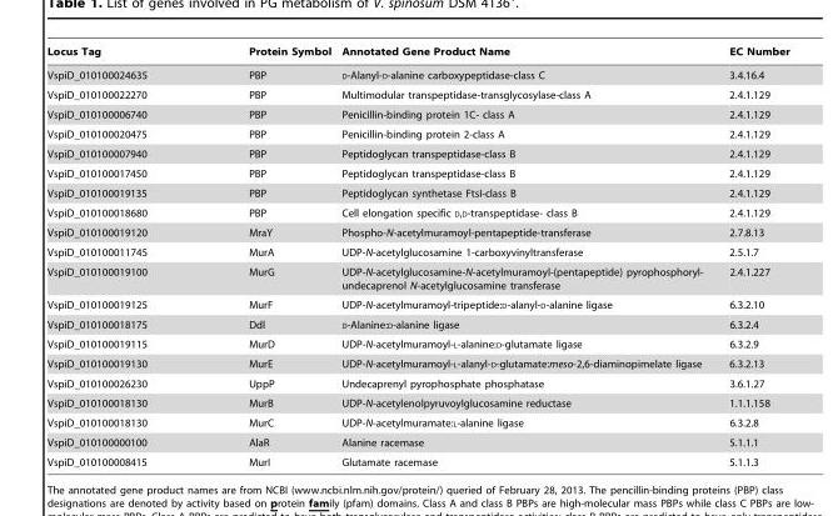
<table><thead><tr><td>Locus Tag</td><td>Protein Symbol</td><td>Annotated Gene Product Name</td><td>EC Number</td></tr></thead><tbody><tr><td>VspiD_010100024635</td><td>PBP</td><td>D-Alanyl-D-alanine carboxypeptidase-class C</td><td>3.4.16.4</td></tr><tr><td>VspiD_010100022270</td><td>PBP</td><td>Multimodular transpeptidase-transglycosylase-class A</td><td>2.4.1.129</td></tr><tr><td>VspiD_010100006740</td><td>PBP</td><td>Penicillin-binding protein 1C- class A</td><td>2.4.1.129</td></tr><tr><td>VspiD_010100020475</td><td>PBP</td><td>Penicillin-binding protein 2-class A</td><td>2.4.1.129</td></tr><tr><td>VspiD_010100007940</td><td>PBP</td><td>Peptidoglycan transpeptidase-class B</td><td>2.4.1.129</td></tr><tr><td>VspiD_010100017450</td><td>PBP</td><td>Peptidoglycan transpeptidase-class B</td><td>2.4.1.129</td></tr><tr><td>VspiD_010100019135</td><td>PBP</td><td>Peptidoglycan synthetase FtsI-class B</td><td>2.4.1.129</td></tr><tr><td>VspiD_010100018680</td><td>PBP</td><td>Cell elongation specific D,D-transpeptidase- class B</td><td>2.4.1.129</td></tr><tr><td>VspiD_010100019120</td><td>MraY</td><td>Phospho-N-acetylmuramoyl-pentapeptide-transferase</td><td>2.7.8.13</td></tr><tr><td>VspiD_010100011745</td><td>MurA</td><td>UDP-N-acetylglucosamine 1-carboxyvinyltransferase</td><td>2.5.1.7</td></tr><tr><td>VspiD_010100019100</td><td>MurG</td><td>UDP-N-acetylglucosamine-N-acetylmuramoyl-(pentapeptide) pyrophosphoryl- undecaprenol N-acetylglucosamine transferase</td><td>2.4.1.227</td></tr><tr><td>VspiD_010100019125</td><td>MurF</td><td>UDP-N-acetylmuramoyl-tripeptide:D-alanyl-D-alanine ligase</td><td>6.3.2.10</td></tr><tr><td>VspiD_010100018175</td><td>Ddl</td><td>D-Alanine:D-alanine ligase</td><td>6.3.2.4</td></tr><tr><td>VspiD_010100019115</td><td>MurD</td><td>UDP-N-acetylmuramoyl-L-alanine:D-glutamate ligase</td><td>6.3.2.9</td></tr><tr><td>VspiD_010100019130</td><td>MurE</td><td>UDP-N-acetylmuramoyl-L-alanyl-D-glutamate:meso-2,6-diaminopimelate ligase</td><td>6.3.2.13</td></tr><tr><td>VspiD_010100026230</td><td>UppP</td><td>Undecaprenyl pyrophosphate phosphatase</td><td>3.6.1.27</td></tr><tr><td>VspiD_010100018130</td><td>MurB</td><td>UDP-N-acetylenolpyruvoylglucosamine reductase</td><td>1.1.1.158</td></tr><tr><td>VspiD_010100018130</td><td>MurC</td><td>UDP-N-acetylmuramate:L-alanine ligase</td><td>6.3.2.8</td></tr><tr><td>VspiD_010100000100</td><td>AlaR</td><td>Alanine racemase</td><td>5.1.1.1</td></tr><tr><td>VspiD_010100008415</td><td>MurI</td><td>Glutamate racemase</td><td>5.1.1.3</td></tr></tbody></table>